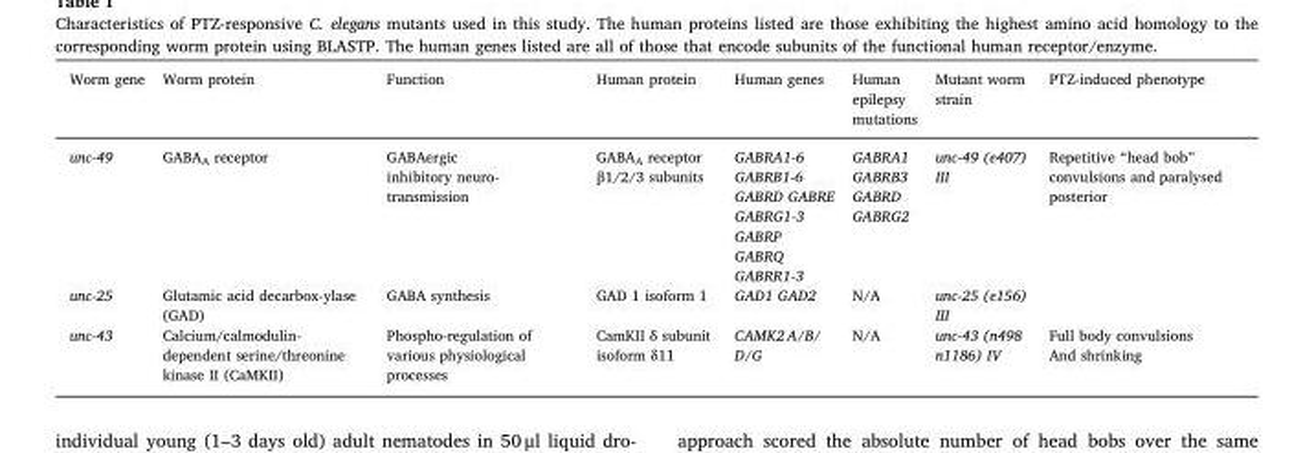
<table><thead><tr><td>Worm gene</td><td>Worm protein</td><td>Function</td><td>Human protein</td><td>Human genes</td><td>Human epilepsy mutations</td><td>Mutant worm strain</td><td>PTZ-induced phenotype</td></tr></thead><tbody><tr><td>unc-49</td><td>GABA<sub>A</sub> receptor</td><td>GABAergic inhibitory neuro- transmission</td><td>GABA<sub>A</sub> receptor β1/2/3 subunits</td><td>GABRA1-6 GABRB1-6 GABRD GABRE GABRG1-3 GABRP GABRQ GABRR1-3</td><td>GABRA1 GABRB3 GABRD GABRG2</td><td>unc-49 (e407) III</td><td rowspan="2">Repetitive “head bob” convulsions and paralysed posterior</td></tr><tr><td>unc-25</td><td>Glutamic acid decarbox-ylase (GAD)</td><td>GABA synthesis</td><td>GAD 1 isoform 1</td><td>GAD1 GAD2</td><td>N/A</td><td>unc-25 (e156) III</td></tr><tr><td>unc-43</td><td>Calcium/calmodulin- dependent serine/threonine kinase II (CaMKII)</td><td>Phospho-regulation of various physiological processes</td><td>CamKII δ subunit isoform δ11</td><td>CAMK2 A/B/ D/G</td><td>N/A</td><td>unc-43 (n498 n1186) IV</td><td>Full body convulsions And shrinking</td></tr></tbody></table>